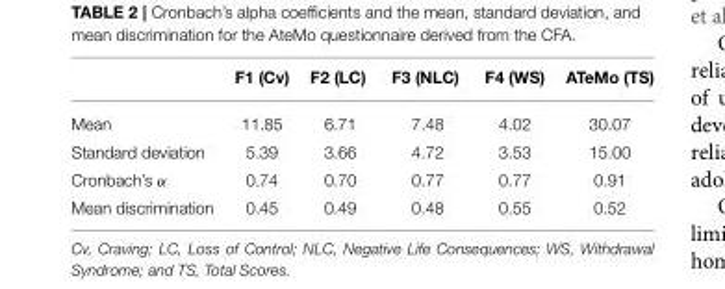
<table><thead><tr><td></td><td>F1 (Cv)</td><td>F2 (LC)</td><td>F3 (NLC)</td><td>F4 (WS)</td><td>ATeMo (TS)</td></tr></thead><tbody><tr><td>Mean</td><td>11.85</td><td>6.71</td><td>7.48</td><td>4.02</td><td>30.07</td></tr><tr><td>Standard deviation</td><td>5.39</td><td>3.66</td><td>4.72</td><td>3.53</td><td>15.00</td></tr><tr><td>Cronbach’s α</td><td>0.74</td><td>0.70</td><td>0.77</td><td>0.77</td><td>0.91</td></tr><tr><td>Mean discrimination</td><td>0.45</td><td>0.49</td><td>0.48</td><td>0.55</td><td>0.52</td></tr></tbody></table>